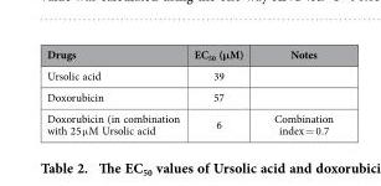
<table><thead><tr><td>Drugs</td><td>EC<sub>50</sub> (μM)</td><td>Notes</td></tr></thead><tbody><tr><td>Ursolic acid</td><td>39</td><td></td></tr><tr><td>Doxorubicin</td><td>57</td><td></td></tr><tr><td>Doxorubicin (in combination with 25 μ M Ursolic acid</td><td>6</td><td>Combination index = 0.7</td></tr></tbody></table>